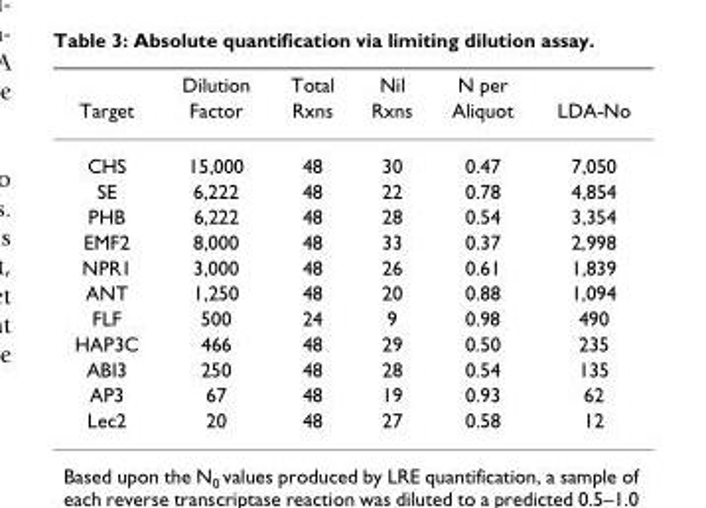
<table><thead><tr><td rowspan="2">Target</td><td rowspan="2">Dilution Factor</td><td rowspan="2">Total Rxns</td><td rowspan="2">Nil Rxns</td><td rowspan="2">N per Aliquot</td><td rowspan="2">LDA-No</td></tr><tr></tr></thead><tbody><tr><td>CHS</td><td>15,000</td><td>48</td><td>30</td><td>0.47</td><td>7,050</td></tr><tr><td>SE</td><td>6,222</td><td>48</td><td>22</td><td>0.78</td><td>4,854</td></tr><tr><td>PHB</td><td>6,222</td><td>48</td><td>28</td><td>0.54</td><td>3,354</td></tr><tr><td>EMF2</td><td>8,000</td><td>48</td><td>33</td><td>0.37</td><td>2,998</td></tr><tr><td>NPR1</td><td>3,000</td><td>48</td><td>26</td><td>0.61</td><td>1,839</td></tr><tr><td>ANT</td><td>1,250</td><td>48</td><td>20</td><td>0.88</td><td>1,094</td></tr><tr><td>FLF</td><td>500</td><td>24</td><td>9</td><td>0.98</td><td>490</td></tr><tr><td>HAP3C</td><td>466</td><td>48</td><td>29</td><td>0.50</td><td>235</td></tr><tr><td>ABI3</td><td>250</td><td>48</td><td>28</td><td>0.54</td><td>135</td></tr><tr><td>AP3</td><td>67</td><td>48</td><td>19</td><td>0.93</td><td>62</td></tr><tr><td>Lec2</td><td>20</td><td>48</td><td>27</td><td>0.58</td><td>12</td></tr></tbody></table>